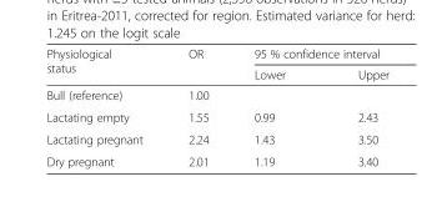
<table><thead><tr><td rowspan="2">Physiological status</td><td rowspan="2">OR</td><td colspan="2">95 % confidence interval</td></tr><tr><td>Lower</td><td>Upper</td></tr></thead><tbody><tr><td>Bull (reference)</td><td>1.00</td><td></td><td></td></tr><tr><td>Lactating empty</td><td>1.55</td><td>0.99</td><td>2.43</td></tr><tr><td>Lactating pregnant</td><td>2.24</td><td>1.43</td><td>3.50</td></tr><tr><td>Dry pregnant</td><td>2.01</td><td>1.19</td><td>3.40</td></tr></tbody></table>